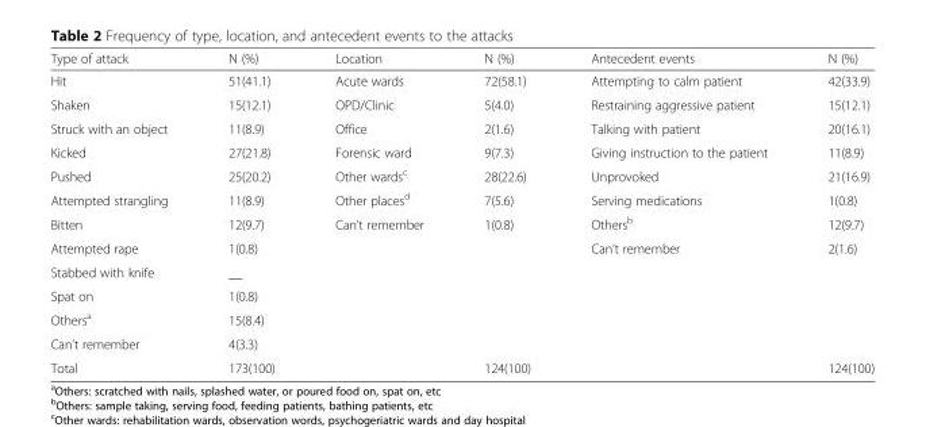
<table><thead><tr><td>Type of attack</td><td>N (%)</td><td>Location</td><td>N (%)</td><td>Antecedent events</td><td>N (%)</td></tr></thead><tbody><tr><td>Hit</td><td>51(41.1)</td><td>Acute wards</td><td>72(58.1)</td><td>Attempting to calm patient</td><td>42(33.9)</td></tr><tr><td>Shaken</td><td>15(12.1)</td><td>OPD/Clinic</td><td>5(4.0)</td><td>Restraining aggressive patient</td><td>15(12.1)</td></tr><tr><td>Struck with an object</td><td>11(8.9)</td><td>Office</td><td>2(1.6)</td><td>Talking with patient</td><td>20(16.1)</td></tr><tr><td>Kicked</td><td>27(21.8)</td><td>Forensic ward</td><td>9(7.3)</td><td>Giving instruction to the patient</td><td>11(8.9)</td></tr><tr><td>Pushed</td><td>25(20.2)</td><td>Other wards<sup>c</sup></td><td>28(22.6)</td><td>Unprovoked</td><td>21(16.9)</td></tr><tr><td>Attempted strangling</td><td>11(8.9)</td><td>Other places<sup>d</sup></td><td>7(5.6)</td><td>Serving medications</td><td>1(0.8)</td></tr><tr><td>Bitten</td><td>12(9.7)</td><td>Can’t remember</td><td>1(0.8)</td><td>Others<sup>b</sup></td><td>12(9.7)</td></tr><tr><td>Attempted rape</td><td>1(0.8)</td><td></td><td></td><td>Can’t remember</td><td>2(1.6)</td></tr><tr><td>Stabbed with knife</td><td>__</td><td></td><td></td><td></td><td rowspan="4"></td></tr><tr><td>Spat on</td><td>1(0.8)</td><td></td><td></td><td></td></tr><tr><td>Others<sup>a</sup></td><td>15(8.4)</td><td></td><td></td><td></td></tr><tr><td>Can’t remember</td><td>4(3.3)</td><td></td><td></td><td></td></tr><tr><td>Total</td><td>173(100)</td><td></td><td>124(100)</td><td></td><td>124(100)</td></tr></tbody></table>